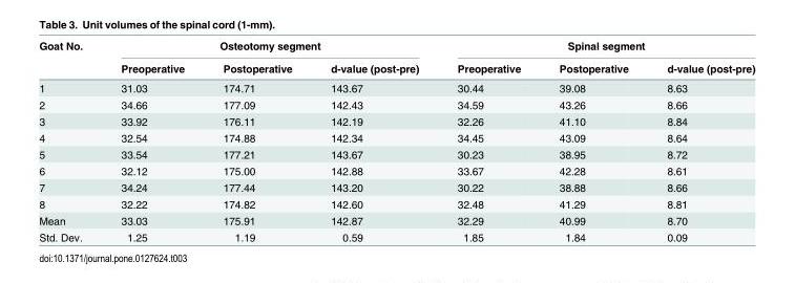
<table><thead><tr><td rowspan="2">Goat No.</td><td colspan="3">Osteotomy segment</td><td colspan="3">Spinal segment</td></tr><tr><td>Preoperative</td><td>Postoperative</td><td>d-value (post-pre)</td><td>Preoperative</td><td>Postoperative</td><td>d-value (post-pre)</td></tr></thead><tbody><tr><td>1</td><td>31.03</td><td>174.71</td><td>143.67</td><td>30.44</td><td>39.08</td><td>8.63</td></tr><tr><td>2</td><td>34.66</td><td>177.09</td><td>142.43</td><td>34.59</td><td>43.26</td><td>8.66</td></tr><tr><td>3</td><td>33.92</td><td>176.11</td><td>142.19</td><td>32.26</td><td>41.10</td><td>8.84</td></tr><tr><td>4</td><td>32.54</td><td>174.88</td><td>142.34</td><td>34.45</td><td>43.09</td><td>8.64</td></tr><tr><td>5</td><td>33.54</td><td>177.21</td><td>143.67</td><td>30.23</td><td>38.95</td><td>8.72</td></tr><tr><td>6</td><td>32.12</td><td>175.00</td><td>142.88</td><td>33.67</td><td>42.28</td><td>8.61</td></tr><tr><td>7</td><td>34.24</td><td>177.44</td><td>143.20</td><td>30.22</td><td>38.88</td><td>8.66</td></tr><tr><td>8</td><td>32.22</td><td>174.82</td><td>142.60</td><td>32.48</td><td>41.29</td><td>8.81</td></tr><tr><td>Mean</td><td>33.03</td><td>175.91</td><td>142.87</td><td>32.29</td><td>40.99</td><td>8.70</td></tr><tr><td>Std. Dev.</td><td>1.25</td><td>1.19</td><td>0.59</td><td>1.85</td><td>1.84</td><td>0.09</td></tr></tbody></table>